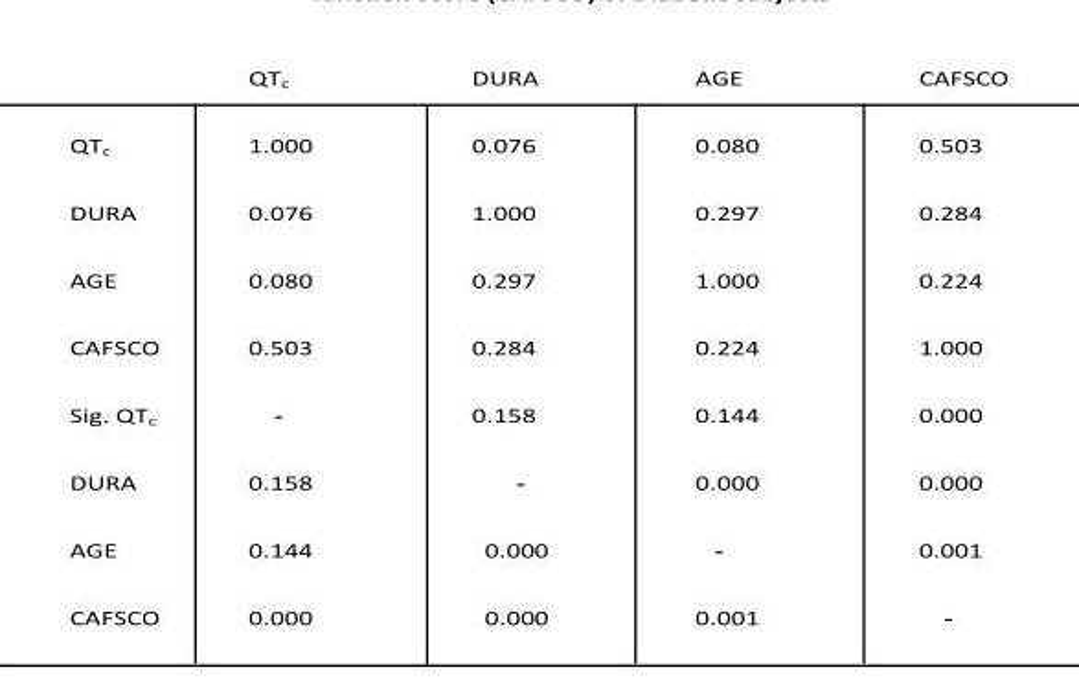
<table><thead><tr><td></td><td>QT<sub>c</sub></td><td>DURA</td><td>AGE</td><td>CAFSCO</td></tr></thead><tbody><tr><td>QT<sub>c</sub></td><td>1.000</td><td>0.076</td><td>0.080</td><td>0.503</td></tr><tr><td>DURA</td><td>0.076</td><td>1.000</td><td>0.297</td><td>0.284</td></tr><tr><td>AGE</td><td>0.080</td><td>0.297</td><td>1.000</td><td>0.224</td></tr><tr><td>CAFSCO</td><td>0.503</td><td>0.284</td><td>0.224</td><td>1.000</td></tr><tr><td>Sig. QT<sub>c</sub></td><td>-</td><td>0.158</td><td>0.144</td><td>0.000</td></tr><tr><td>DURA</td><td>0.158</td><td>-</td><td>0.000</td><td>0.000</td></tr><tr><td>AGE</td><td>0.144</td><td>0.000</td><td>-</td><td>0.001</td></tr><tr><td>CAFSCO</td><td>0.000</td><td>0.000</td><td>0.001</td><td>-</td></tr></tbody></table>